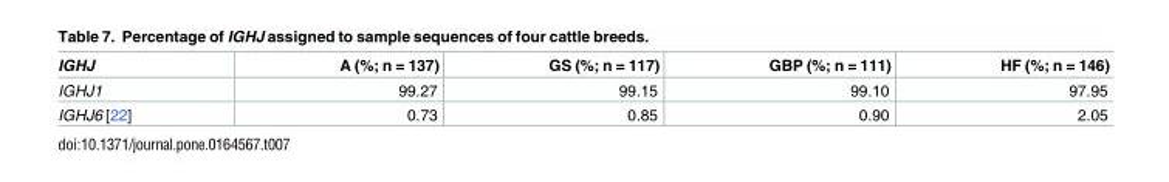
<table><thead><tr><td>IGHJ</td><td>A (%; n = 137)</td><td>GS (%; n = 117)</td><td>GBP (%; n = 111)</td><td>HF (%; n = 146)</td></tr></thead><tbody><tr><td>IGHJ1</td><td>99.27</td><td>99.15</td><td>99.10</td><td>97.95</td></tr><tr><td>IGHJ6 [22]</td><td>0.73</td><td>0.85</td><td>0.90</td><td>2.05</td></tr></tbody></table>